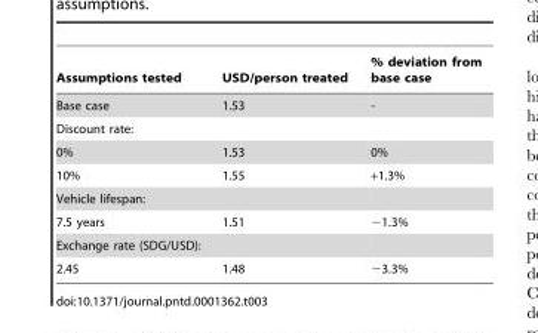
<table><thead><tr><td>Assumptions tested</td><td>USD/person treated</td><td>% deviation from base case</td></tr></thead><tbody><tr><td>Base case</td><td>1.53</td><td>-</td></tr><tr><td colspan="3">Discount rate:</td></tr><tr><td>0%</td><td>1.53</td><td>0%</td></tr><tr><td>10%</td><td>1.55</td><td>+1.3%</td></tr><tr><td colspan="3">Vehicle lifespan:</td></tr><tr><td>7.5 years</td><td>1.51</td><td>−1.3%</td></tr><tr><td colspan="3">Exchange rate (SDG/USD):</td></tr><tr><td>2.45</td><td>1.48</td><td>−3.3%</td></tr></tbody></table>